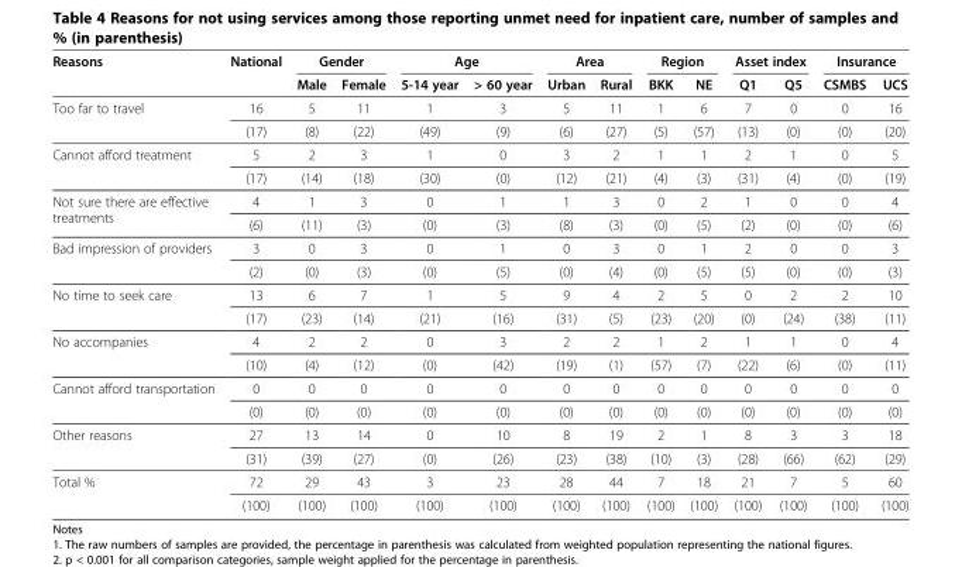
<table><thead><tr><td rowspan="2">Reasons</td><td rowspan="2">National</td><td colspan="2">Gender</td><td colspan="2">Age</td><td colspan="2">Area</td><td colspan="2">Region</td><td colspan="2">Asset index</td><td colspan="2">Insurance</td></tr><tr><td>Male</td><td>Female</td><td>5-14 year</td><td>&gt; 60 year</td><td>Urban</td><td>Rural</td><td>BKK</td><td>NE</td><td>Q1</td><td>Q5</td><td>CSMBS</td><td>UCS</td></tr></thead><tbody><tr><td rowspan="2">Too far to travel</td><td>16</td><td>5</td><td>11</td><td>1</td><td>3</td><td>5</td><td>11</td><td>1</td><td>6</td><td>7</td><td>0</td><td>0</td><td>16</td></tr><tr><td>(17)</td><td>(8)</td><td>(22)</td><td>(49)</td><td>(9)</td><td>(6)</td><td>(27)</td><td>(5)</td><td>(57)</td><td>(13)</td><td>(0)</td><td>(0)</td><td>(20)</td></tr><tr><td rowspan="2">Cannot afford treatment</td><td>5</td><td>2</td><td>3</td><td>1</td><td>0</td><td>3</td><td>2</td><td>1</td><td>1</td><td>2</td><td>1</td><td>0</td><td>5</td></tr><tr><td>(17)</td><td>(14)</td><td>(18)</td><td>(30)</td><td>(0)</td><td>(12)</td><td>(21)</td><td>(4)</td><td>(3)</td><td>(31)</td><td>(4)</td><td>(0)</td><td>(19)</td></tr><tr><td rowspan="2">Not sure there are effective treatments</td><td>4</td><td>1</td><td>3</td><td>0</td><td>1</td><td>1</td><td>3</td><td>0</td><td>2</td><td>1</td><td>0</td><td>0</td><td>4</td></tr><tr><td>(6)</td><td>(11)</td><td>(3)</td><td>(0)</td><td>(3)</td><td>(8)</td><td>(3)</td><td>(0)</td><td>(5)</td><td>(2)</td><td>(0)</td><td>(0)</td><td>(6)</td></tr><tr><td rowspan="2">Bad impression of providers</td><td>3</td><td>0</td><td>3</td><td>0</td><td>1</td><td>0</td><td>3</td><td>0</td><td>1</td><td>2</td><td>0</td><td>0</td><td>3</td></tr><tr><td>(2)</td><td>(0)</td><td>(3)</td><td>(0)</td><td>(5)</td><td>(0)</td><td>(4)</td><td>(0)</td><td>(5)</td><td>(5)</td><td>(0)</td><td>(0)</td><td>(3)</td></tr><tr><td rowspan="2">No time to seek care</td><td>13</td><td>6</td><td>7</td><td>1</td><td>5</td><td>9</td><td>4</td><td>2</td><td>5</td><td>0</td><td>2</td><td>2</td><td>10</td></tr><tr><td>(17)</td><td>(23)</td><td>(14)</td><td>(21)</td><td>(16)</td><td>(31)</td><td>(5)</td><td>(23)</td><td>(20)</td><td>(0)</td><td>(24)</td><td>(38)</td><td>(11)</td></tr><tr><td rowspan="2">No accompanies</td><td>4</td><td>2</td><td>2</td><td>0</td><td>3</td><td>2</td><td>2</td><td>1</td><td>2</td><td>1</td><td>1</td><td>0</td><td>4</td></tr><tr><td>(10)</td><td>(4)</td><td>(12)</td><td>(0)</td><td>(42)</td><td>(19)</td><td>(1)</td><td>(57)</td><td>(7)</td><td>(22)</td><td>(6)</td><td>(0)</td><td>(11)</td></tr><tr><td rowspan="2">Cannot afford transportation</td><td>0</td><td>0</td><td>0</td><td>0</td><td>0</td><td>0</td><td>0</td><td>0</td><td>0</td><td>0</td><td>0</td><td>0</td><td>0</td></tr><tr><td>(0)</td><td>(0)</td><td>(0)</td><td>(0)</td><td>(0)</td><td>(0)</td><td>(0)</td><td>(0)</td><td>(0)</td><td>(0)</td><td>(0)</td><td>(0)</td><td>(0)</td></tr><tr><td rowspan="2">Other reasons</td><td>27</td><td>13</td><td>14</td><td>0</td><td>10</td><td>8</td><td>19</td><td>2</td><td>1</td><td>8</td><td>3</td><td>3</td><td>18</td></tr><tr><td>(31)</td><td>(39)</td><td>(27)</td><td>(0)</td><td>(26)</td><td>(23)</td><td>(38)</td><td>(10)</td><td>(3)</td><td>(28)</td><td>(66)</td><td>(62)</td><td>(29)</td></tr><tr><td rowspan="2">Total %</td><td>72</td><td>29</td><td>43</td><td>3</td><td>23</td><td>28</td><td>44</td><td>7</td><td>18</td><td>21</td><td>7</td><td>5</td><td>60</td></tr><tr><td>(100)</td><td>(100)</td><td>(100)</td><td>(100)</td><td>(100)</td><td>(100)</td><td>(100)</td><td>(100)</td><td>(100)</td><td>(100)</td><td>(100)</td><td>(100)</td><td>(100)</td></tr></tbody></table>